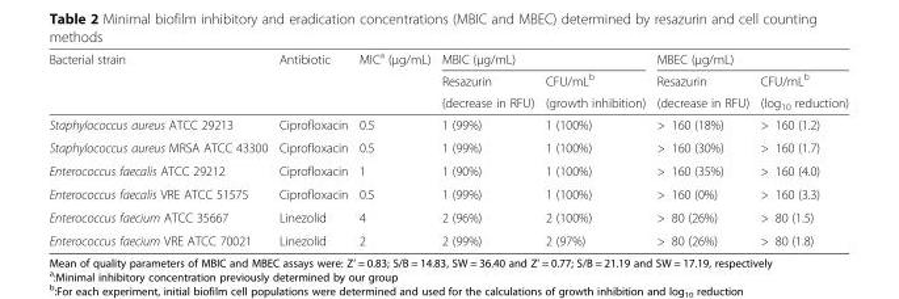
<table><thead><tr><td rowspan="3">Bacterial strain</td><td rowspan="3">Antibiotic</td><td rowspan="3">MIC<sup>a</sup> (μg/mL)</td><td colspan="2">MBIC (μg/mL)</td><td colspan="2">MBEC (μg/mL)</td></tr><tr><td rowspan="2">Resazurin (decrease in RFU)</td><td rowspan="2">CFU/mL<sup>b</sup> (growth inhibition)</td><td rowspan="2">Resazurin (decrease in RFU)</td><td rowspan="2">CFU/mL<sup>b</sup> (log<sub>10</sub> reduction)</td></tr><tr></tr></thead><tbody><tr><td>Staphylococcus aureus ATCC 29213</td><td>Ciprofloxacin</td><td>0.5</td><td>1 (99%)</td><td>1 (100%)</td><td>&gt; 160 (18%)</td><td>&gt; 160 (1.2)</td></tr><tr><td>Staphylococcus aureus MRSA ATCC 43300</td><td>Ciprofloxacin</td><td>0.5</td><td>1 (99%)</td><td>1 (100%)</td><td>&gt; 160 (30%)</td><td>&gt; 160 (1.7)</td></tr><tr><td>Enterococcus faecalis ATCC 29212</td><td>Ciprofloxacin</td><td>1</td><td>1 (90%)</td><td>1 (100%)</td><td>&gt; 160 (35%)</td><td>&gt; 160 (4.0)</td></tr><tr><td>Enterococcus faecalis VRE ATCC 51575</td><td>Ciprofloxacin</td><td>0.5</td><td>1 (99%)</td><td>1 (100%)</td><td>&gt; 160 (0%)</td><td>&gt; 160 (3.3)</td></tr><tr><td>Enterococcus faecium ATCC 35667</td><td>Linezolid</td><td>4</td><td>2 (96%)</td><td>2 (100%)</td><td>&gt; 80 (26%)</td><td>&gt; 80 (1.5)</td></tr><tr><td>Enterococcus faecium VRE ATCC 70021</td><td>Linezolid</td><td>2</td><td>2 (99%)</td><td>2 (97%)</td><td>&gt; 80 (26%)</td><td>&gt; 80 (1.8)</td></tr></tbody></table>